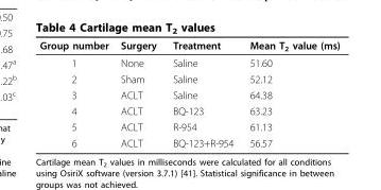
<table><thead><tr><td>Group number</td><td>Surgery</td><td>Treatment</td><td>Mean T<sub>2</sub> value (ms)</td></tr></thead><tbody><tr><td>1</td><td>None</td><td>Saline</td><td>51.60</td></tr><tr><td>2</td><td>Sham</td><td>Saline</td><td>52.12</td></tr><tr><td>3</td><td>ACLT</td><td>Saline</td><td>64.38</td></tr><tr><td>4</td><td>ACLT</td><td>BQ-123</td><td>63.23</td></tr><tr><td>5</td><td>ACLT</td><td>R-954</td><td>61.13</td></tr><tr><td>6</td><td>ACLT</td><td>BQ-123+R-954</td><td>56.57</td></tr></tbody></table>